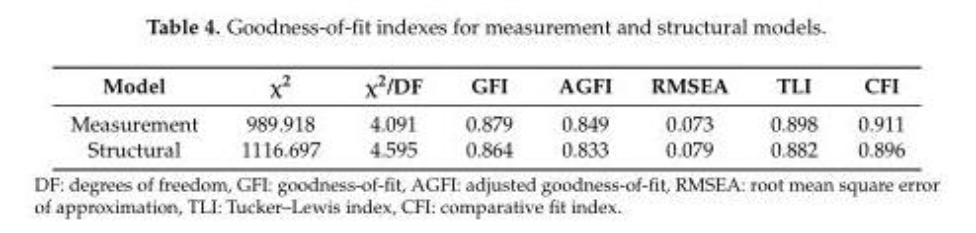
<table><thead><tr><td>Model</td><td>χ<sup>2</sup></td><td>χ<sup>2</sup>/DF</td><td>GFI</td><td>AGFI</td><td>RMSEA</td><td>TLI</td><td>CFI</td></tr></thead><tbody><tr><td>Measurement</td><td>989.918</td><td>4.091</td><td>0.879</td><td>0.849</td><td>0.073</td><td>0.898</td><td>0.911</td></tr><tr><td>Structural</td><td>1116.697</td><td>4.595</td><td>0.864</td><td>0.833</td><td>0.079</td><td>0.882</td><td>0.896</td></tr></tbody></table>